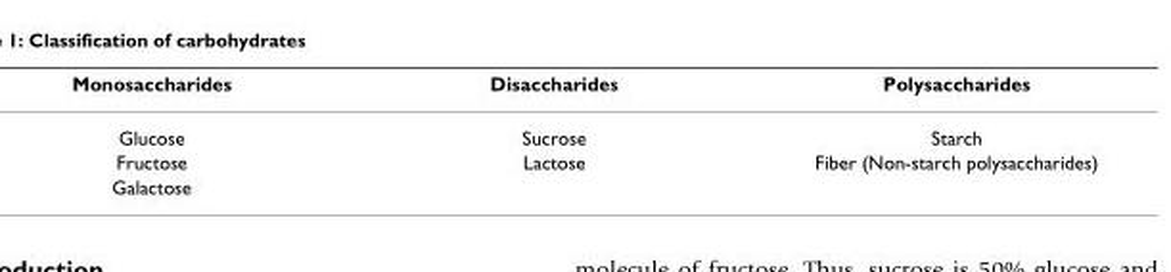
<table><thead><tr><td>Monosaccharides</td><td>Disaccharides</td><td>Polysaccharides</td></tr></thead><tbody><tr><td>Glucose</td><td>Sucrose</td><td>Starch</td></tr><tr><td>Fructose</td><td>Lactose</td><td>Fiber (Non-starch polysaccharides)</td></tr><tr><td>Galactose</td><td></td><td></td></tr></tbody></table>